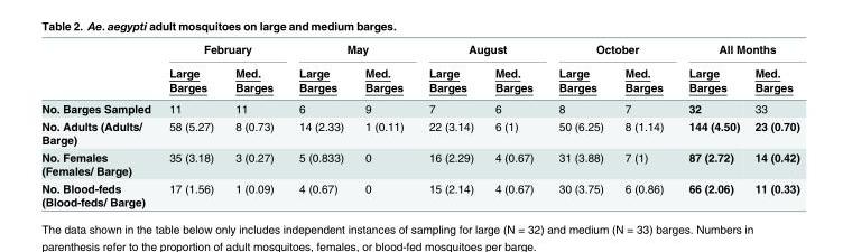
<table><thead><tr><td rowspan="2"></td><td colspan="2">February</td><td colspan="2">May</td><td colspan="2">August</td><td colspan="2">October</td><td colspan="2">All Months</td></tr><tr><td>Large Barges</td><td>Med. Barges</td><td>Large Barges</td><td>Med. Barges</td><td>Large Barges</td><td>Med. Barges</td><td>Large Barges</td><td>Med. Barges</td><td>Large Barges</td><td>Med. Barges</td></tr></thead><tbody><tr><td>No. Barges Sampled</td><td>11</td><td>11</td><td>6</td><td>9</td><td>7</td><td>6</td><td>8</td><td>7</td><td>32</td><td>33</td></tr><tr><td>No. Adults (Adults/ Barge)</td><td>58 (5.27)</td><td>8 (0.73)</td><td>14 (2.33)</td><td>1 (0.11)</td><td>22 (3.14)</td><td>6 (1)</td><td>50 (6.25)</td><td>8 (1.14)</td><td>144 (4.50)</td><td>23 (0.70)</td></tr><tr><td>No. Females (Females/ Barge)</td><td>35 (3.18)</td><td>3 (0.27)</td><td>5 (0.833)</td><td>0</td><td>16 (2.29)</td><td>4 (0.67)</td><td>31 (3.88)</td><td>7 (1)</td><td>87 (2.72)</td><td>14 (0.42)</td></tr><tr><td>No. Blood-feds (Blood-feds/ Barge)</td><td>17 (1.56)</td><td>1 (0.09)</td><td>4 (0.67)</td><td>0</td><td>15 (2.14)</td><td>4 (0.67)</td><td>30 (3.75)</td><td>6 (0.86)</td><td>66 (2.06)</td><td>11 (0.33)</td></tr></tbody></table>